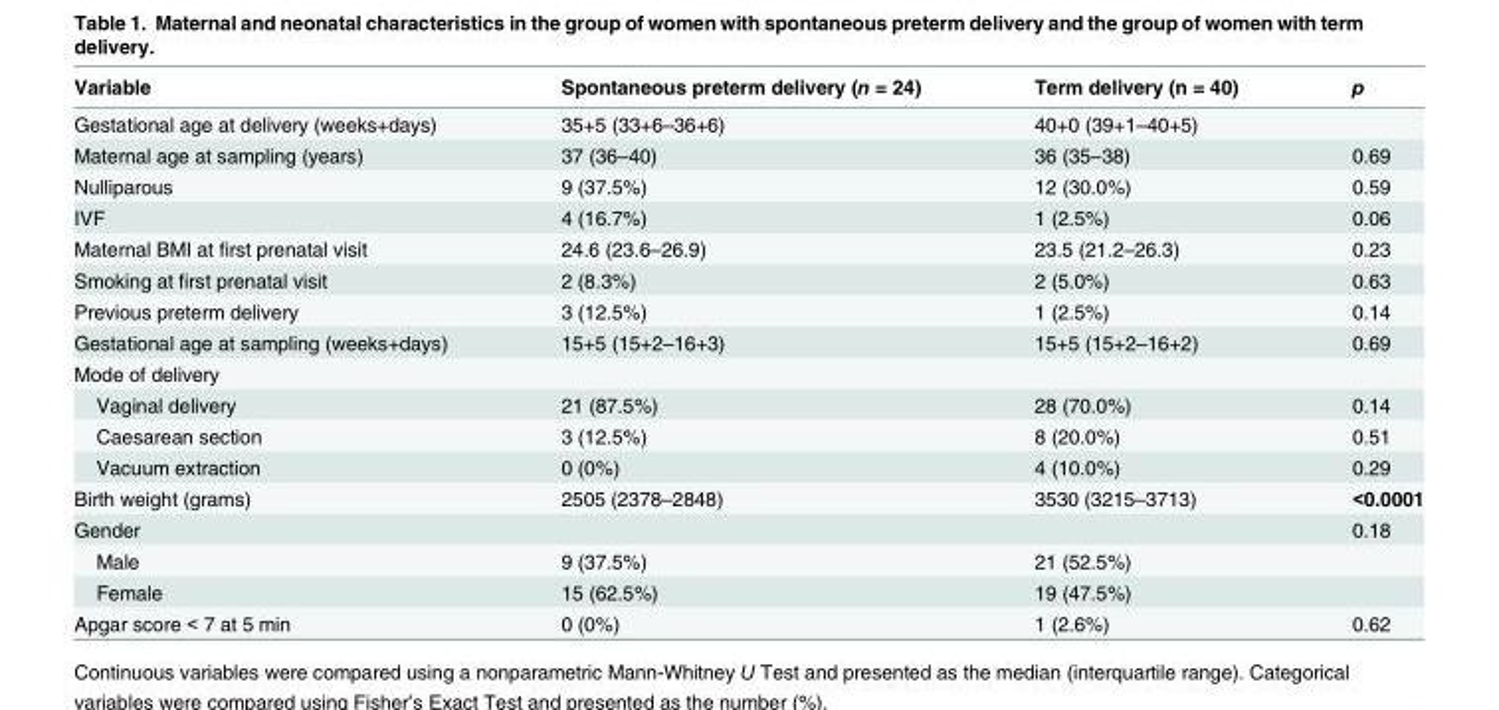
<table><thead><tr><td>Variable</td><td>Spontaneous preterm delivery (n = 24)</td><td>Term delivery (n = 40)</td><td>p</td></tr></thead><tbody><tr><td>Gestational age at delivery (weeks+days)</td><td>35+5 (33+6–36+6)</td><td>40+0 (39+1–40+5)</td><td></td></tr><tr><td>Maternal age at sampling (years)</td><td>37 (36–40)</td><td>36 (35–38)</td><td>0.69</td></tr><tr><td>Nulliparous</td><td>9 (37.5%)</td><td>12 (30.0%)</td><td>0.59</td></tr><tr><td>IVF</td><td>4 (16.7%)</td><td>1 (2.5%)</td><td>0.06</td></tr><tr><td>Maternal BMI at first prenatal visit</td><td>24.6 (23.6–26.9)</td><td>23.5 (21.2–26.3)</td><td>0.23</td></tr><tr><td>Smoking at first prenatal visit</td><td>2 (8.3%)</td><td>2 (5.0%)</td><td>0.63</td></tr><tr><td>Previous preterm delivery</td><td>3 (12.5%)</td><td>1 (2.5%)</td><td>0.14</td></tr><tr><td>Gestational age at sampling (weeks+days)</td><td>15+5 (15+2–16+3)</td><td>15+5 (15+2–16+2)</td><td>0.69</td></tr><tr><td colspan="4">Mode of delivery</td></tr><tr><td>Vaginal delivery</td><td>21 (87.5%)</td><td>28 (70.0%)</td><td>0.14</td></tr><tr><td>Caesarean section</td><td>3 (12.5%)</td><td>8 (20.0%)</td><td>0.51</td></tr><tr><td>Vacuum extraction</td><td>0 (0%)</td><td>4 (10.0%)</td><td>0.29</td></tr><tr><td>Birth weight (grams)</td><td>2505 (2378–2848)</td><td>3530 (3215–3713)</td><td>&lt;0.0001</td></tr><tr><td>Gender</td><td></td><td></td><td>0.18</td></tr><tr><td>Male</td><td>9 (37.5%)</td><td>21 (52.5%)</td><td></td></tr><tr><td>Female</td><td>15 (62.5%)</td><td>19 (47.5%)</td><td></td></tr><tr><td>Apgar score &lt; 7 at 5 min</td><td>0 (0%)</td><td>1 (2.6%)</td><td>0.62</td></tr></tbody></table>